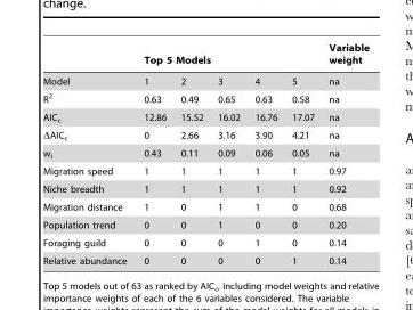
<table><thead><tr><td rowspan="2">Model</td><td colspan="5">Top 5 Models</td><td rowspan="2">Variable weight na</td></tr><tr><td>1</td><td>2</td><td>3</td><td>4</td><td>5</td></tr></thead><tbody><tr><td>R<sup>2</sup></td><td>0.63</td><td>0.49</td><td>0.65</td><td>0.63</td><td>0.58</td><td>na</td></tr><tr><td>AIC<sub>c</sub></td><td>12.86</td><td>15.52</td><td>16.02</td><td>16.76</td><td>17.07</td><td>na</td></tr><tr><td>ΔAIC<sub>c</sub></td><td>0</td><td>2.66</td><td>3.16</td><td>3.90</td><td>4.21</td><td>na</td></tr><tr><td>w<sub>i</sub></td><td>0.43</td><td>0.11</td><td>0.09</td><td>0.06</td><td>0.05</td><td>na</td></tr><tr><td>Migration speed</td><td>1</td><td>1</td><td>1</td><td>1</td><td>1</td><td>0.97</td></tr><tr><td>Niche breadth</td><td>1</td><td>1</td><td>1</td><td>1</td><td>1</td><td>0.92</td></tr><tr><td>Migration distance</td><td>1</td><td>0</td><td>1</td><td>1</td><td>0</td><td>0.68</td></tr><tr><td>Population trend</td><td>0</td><td>0</td><td>1</td><td>0</td><td>0</td><td>0.20</td></tr><tr><td>Foraging guild</td><td>0</td><td>0</td><td>0</td><td>1</td><td>0</td><td>0.14</td></tr><tr><td>Relative abundance</td><td>0</td><td>0</td><td>0</td><td>0</td><td>1</td><td>0.14</td></tr></tbody></table>